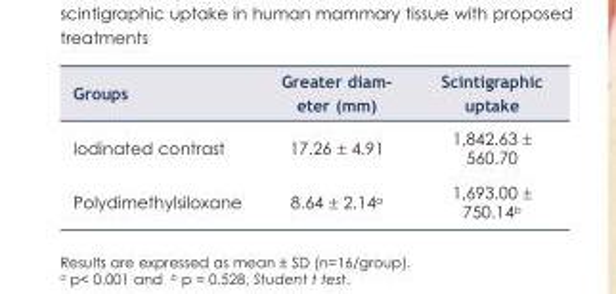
<table><thead><tr><td>Groups</td><td>Greater diam- eter (mm)</td><td>Scintigraphic uptake</td></tr></thead><tbody><tr><td>Iodinated contrast</td><td>17.26 ± 4.91</td><td>1,842.63 ± 560.70</td></tr><tr><td>Polydimethylsiloxane</td><td>8.64 ± 2.14<sup>a</sup></td><td>1,693.00 ± 750.14<sup>b</sup></td></tr></tbody></table>